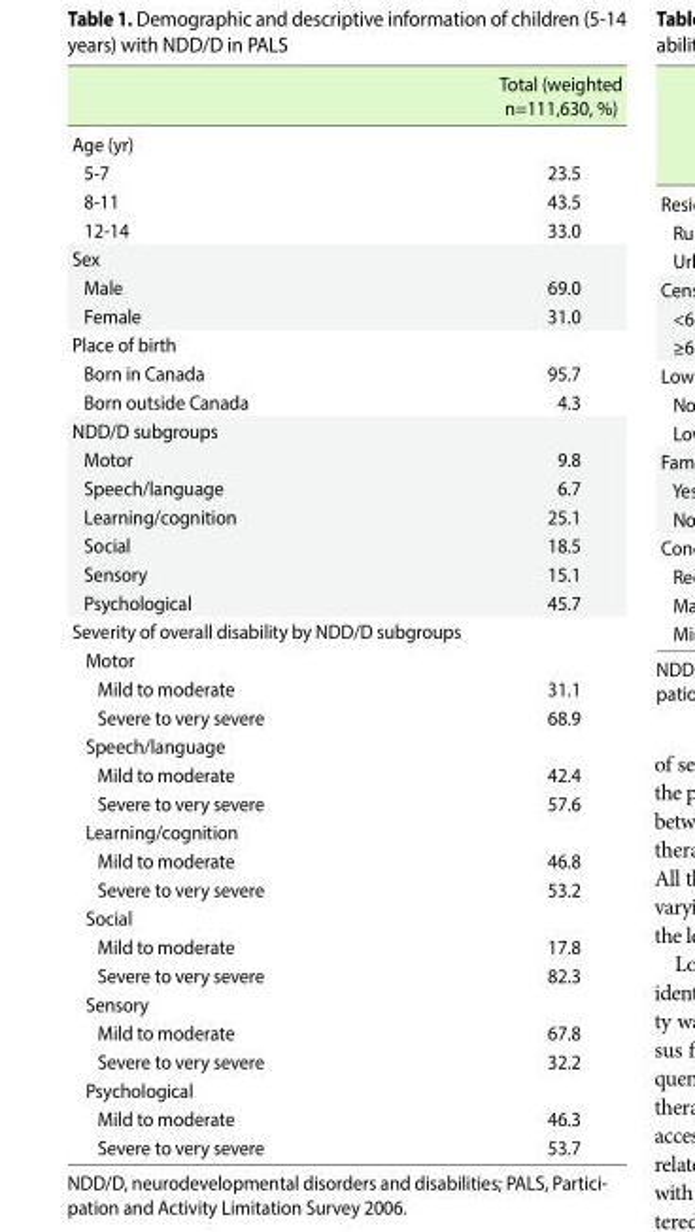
<table><thead><tr><td></td><td>Total (weighted n=111,630, %)</td></tr></thead><tbody><tr><td colspan="2">Age (yr)</td></tr><tr><td>5-7</td><td>23.5</td></tr><tr><td>8-11</td><td>43.5</td></tr><tr><td>12-14</td><td>33.0</td></tr><tr><td colspan="2">Sex</td></tr><tr><td>Male</td><td>69.0</td></tr><tr><td>Female</td><td>31.0</td></tr><tr><td colspan="2">Place of birth</td></tr><tr><td>Born in Canada</td><td>95.7</td></tr><tr><td>Born outside Canada</td><td>4.3</td></tr><tr><td colspan="2">NDD/D subgroups</td></tr><tr><td>Motor</td><td>9.8</td></tr><tr><td>Speech/language</td><td>6.7</td></tr><tr><td>Learning/cognition</td><td>25.1</td></tr><tr><td>Social</td><td>18.5</td></tr><tr><td>Sensory</td><td>15.1</td></tr><tr><td>Psychological</td><td>45.7</td></tr><tr><td colspan="2">Severity of overall disability by NDD/D subgroups</td></tr><tr><td colspan="2">Motor</td></tr><tr><td>Mild to moderate</td><td>31.1</td></tr><tr><td>Severe to very severe</td><td>68.9</td></tr><tr><td colspan="2">Speech/language</td></tr><tr><td>Mild to moderate</td><td>42.4</td></tr><tr><td>Severe to very severe</td><td>57.6</td></tr><tr><td colspan="2">Learning/cognition</td></tr><tr><td>Mild to moderate</td><td>46.8</td></tr><tr><td>Severe to very severe</td><td>53.2</td></tr><tr><td colspan="2">Social</td></tr><tr><td>Mild to moderate</td><td>17.8</td></tr><tr><td>Severe to very severe</td><td>82.3</td></tr><tr><td colspan="2">Sensory</td></tr><tr><td>Mild to moderate</td><td>67.8</td></tr><tr><td>Severe to very severe</td><td>32.2</td></tr><tr><td colspan="2">Psychological</td></tr><tr><td>Mild to moderate</td><td>46.3</td></tr><tr><td>Severe to very severe</td><td>53.7</td></tr></tbody></table>